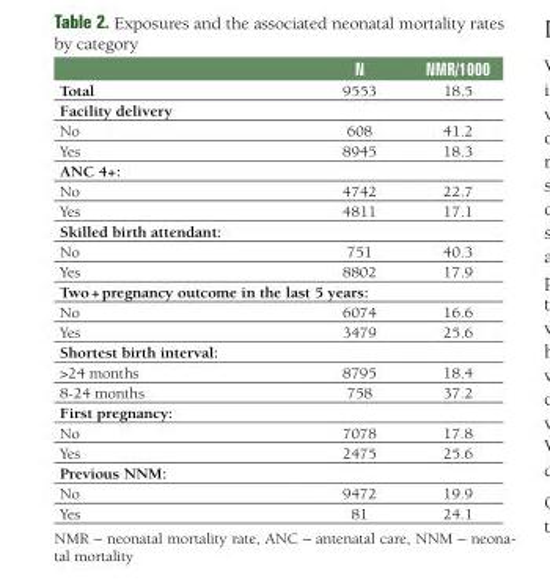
<table><thead><tr><td></td><td>N</td><td>NMR/1000</td></tr></thead><tbody><tr><td>Total</td><td>9553</td><td>18.5</td></tr><tr><td colspan="3">Facility delivery</td></tr><tr><td>No</td><td>608</td><td>41.2</td></tr><tr><td>Yes</td><td>8945</td><td>18.3</td></tr><tr><td colspan="3">ANC 4+:</td></tr><tr><td>No</td><td>4742</td><td>22.7</td></tr><tr><td>Yes</td><td>4811</td><td>17.1</td></tr><tr><td colspan="3">Skilled birth attendant:</td></tr><tr><td>No</td><td>751</td><td>40.3</td></tr><tr><td>Yes</td><td>8802</td><td>17.9</td></tr><tr><td colspan="3">Two + pregnancy outcome in the last 5 years:</td></tr><tr><td>No</td><td>6074</td><td>16.6</td></tr><tr><td>Yes</td><td>3479</td><td>25.6</td></tr><tr><td colspan="3">Shortest birth interval:</td></tr><tr><td>&gt;24 months</td><td>8795</td><td>18.4</td></tr><tr><td>8-24 months</td><td>758</td><td>37.2</td></tr><tr><td colspan="3">First pregnancy:</td></tr><tr><td>No</td><td>7078</td><td>17.8</td></tr><tr><td>Yes</td><td>2475</td><td>25.6</td></tr><tr><td colspan="3">Previous NNM:</td></tr><tr><td>No</td><td>9472</td><td>19.9</td></tr><tr><td>Yes</td><td>81</td><td>24.1</td></tr></tbody></table>